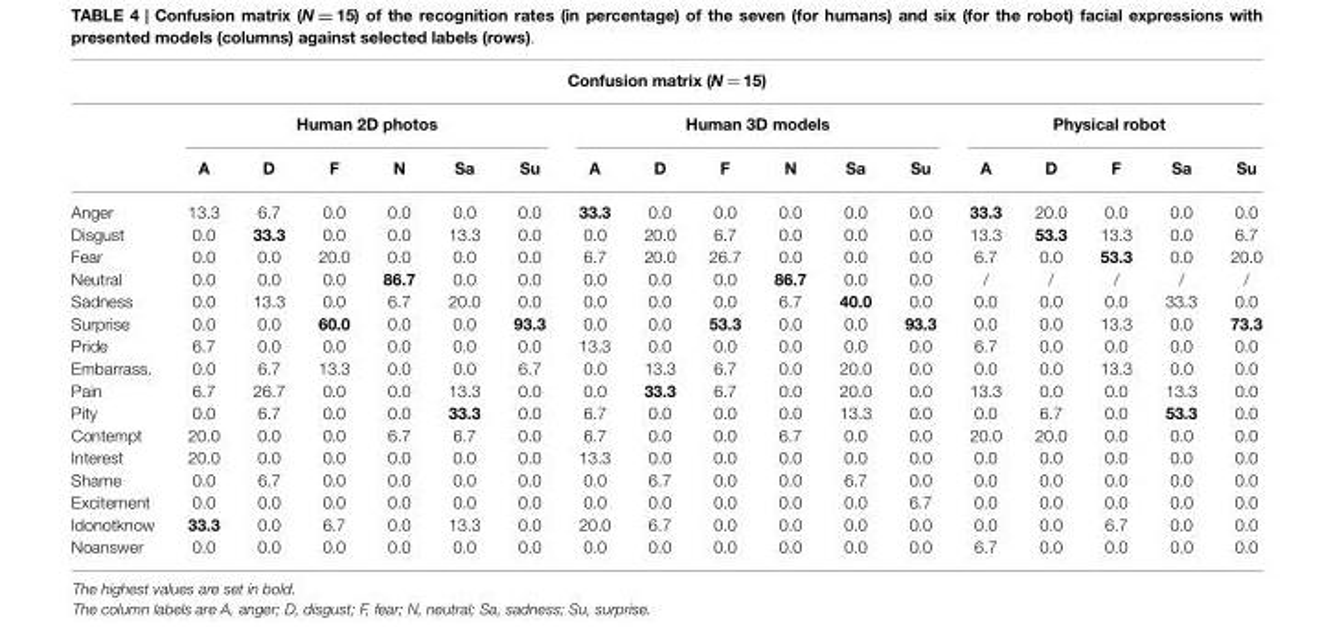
<table><thead><tr><td colspan="18">Confusion matrix (N = 15)</td></tr><tr><td rowspan="2"></td><td colspan="6">Human 2D photos</td><td colspan="6">Human 3D models</td><td colspan="5">Physical robot</td></tr><tr><td>A</td><td>D</td><td>F</td><td>N</td><td>Sa</td><td>Su</td><td>A</td><td>D</td><td>F</td><td>N</td><td>Sa</td><td>Su</td><td>A</td><td>D</td><td>F</td><td>Sa</td><td>Su</td></tr></thead><tbody><tr><td>Anger</td><td>13.3</td><td>6.7</td><td>0.0</td><td>0.0</td><td>0.0</td><td>0.0</td><td>33.3</td><td>0.0</td><td>0.0</td><td>0.0</td><td>0.0</td><td>0.0</td><td>33.3</td><td>20.0</td><td>0.0</td><td>0.0</td><td>0.0</td></tr><tr><td>Disgust</td><td>0.0</td><td>33.3</td><td>0.0</td><td>0.0</td><td>13.3</td><td>0.0</td><td>0.0</td><td>20.0</td><td>6.7</td><td>0.0</td><td>0.0</td><td>0.0</td><td>13.3</td><td>53.3</td><td>13.3</td><td>0.0</td><td>6.7</td></tr><tr><td>Fear</td><td>0.0</td><td>0.0</td><td>20.0</td><td>0.0</td><td>0.0</td><td>0.0</td><td>6.7</td><td>20.0</td><td>26.7</td><td>0.0</td><td>0.0</td><td>0.0</td><td>6.7</td><td>0.0</td><td>53.3</td><td>0.0</td><td>20.0</td></tr><tr><td>Neutral</td><td>0.0</td><td>0.0</td><td>0.0</td><td>86.7</td><td>0.0</td><td>0.0</td><td>0.0</td><td>0.0</td><td>0.0</td><td>86.7</td><td>0.0</td><td>0.0</td><td>/</td><td>/</td><td>/</td><td>/</td><td>/</td></tr><tr><td>Sadness</td><td>0.0</td><td>13.3</td><td>0.0</td><td>6.7</td><td>20.0</td><td>0.0</td><td>0.0</td><td>0.0</td><td>0.0</td><td>6.7</td><td>40.0</td><td>0.0</td><td>0.0</td><td>0.0</td><td>0.0</td><td>33.3</td><td>0.0</td></tr><tr><td>Surprise</td><td>0.0</td><td>0.0</td><td>60.0</td><td>0.0</td><td>0.0</td><td>93.3</td><td>0.0</td><td>0.0</td><td>53.3</td><td>0.0</td><td>0.0</td><td>93.3</td><td>0.0</td><td>0.0</td><td>13.3</td><td>0.0</td><td>73.3</td></tr><tr><td>Pride</td><td>6.7</td><td>0.0</td><td>0.0</td><td>0.0</td><td>0.0</td><td>0.0</td><td>13.3</td><td>0.0</td><td>0.0</td><td>0.0</td><td>0.0</td><td>0.0</td><td>6.7</td><td>0.0</td><td>0.0</td><td>0.0</td><td>0.0</td></tr><tr><td>Embarrass.</td><td>0.0</td><td>6.7</td><td>13.3</td><td>0.0</td><td>0.0</td><td>6.7</td><td>0.0</td><td>13.3</td><td>6.7</td><td>0.0</td><td>20.0</td><td>0.0</td><td>0.0</td><td>0.0</td><td>13.3</td><td>0.0</td><td>0.0</td></tr><tr><td>Pain</td><td>6.7</td><td>26.7</td><td>0.0</td><td>0.0</td><td>13.3</td><td>0.0</td><td>0.0</td><td>33.3</td><td>6.7</td><td>0.0</td><td>20.0</td><td>0.0</td><td>13.3</td><td>0.0</td><td>0.0</td><td>13.3</td><td>0.0</td></tr><tr><td>Pity</td><td>0.0</td><td>6.7</td><td>0.0</td><td>0.0</td><td>33.3</td><td>0.0</td><td>6.7</td><td>0.0</td><td>0.0</td><td>0.0</td><td>13.3</td><td>0.0</td><td>0.0</td><td>6.7</td><td>0.0</td><td>53.3</td><td>0.0</td></tr><tr><td>Contempt</td><td>20.0</td><td>0.0</td><td>0.0</td><td>6.7</td><td>6.7</td><td>0.0</td><td>6.7</td><td>0.0</td><td>0.0</td><td>6.7</td><td>0.0</td><td>0.0</td><td>20.0</td><td>20.0</td><td>0.0</td><td>0.0</td><td>0.0</td></tr><tr><td>Interest</td><td>20.0</td><td>0.0</td><td>0.0</td><td>0.0</td><td>0.0</td><td>0.0</td><td>13.3</td><td>0.0</td><td>0.0</td><td>0.0</td><td>0.0</td><td>0.0</td><td>0.0</td><td>0.0</td><td>0.0</td><td>0.0</td><td>0.0</td></tr><tr><td>Shame</td><td>0.0</td><td>6.7</td><td>0.0</td><td>0.0</td><td>0.0</td><td>0.0</td><td>0.0</td><td>6.7</td><td>0.0</td><td>0.0</td><td>6.7</td><td>0.0</td><td>0.0</td><td>0.0</td><td>0.0</td><td>0.0</td><td>0.0</td></tr><tr><td>Excitement</td><td>0.0</td><td>0.0</td><td>0.0</td><td>0.0</td><td>0.0</td><td>0.0</td><td>0.0</td><td>0.0</td><td>0.0</td><td>0.0</td><td>0.0</td><td>6.7</td><td>0.0</td><td>0.0</td><td>0.0</td><td>0.0</td><td>0.0</td></tr><tr><td>Idonotknow</td><td>33.3</td><td>0.0</td><td>6.7</td><td>0.0</td><td>13.3</td><td>0.0</td><td>20.0</td><td>6.7</td><td>0.0</td><td>0.0</td><td>0.0</td><td>0.0</td><td>0.0</td><td>0.0</td><td>6.7</td><td>0.0</td><td>0.0</td></tr><tr><td>Noanswer</td><td>0.0</td><td>0.0</td><td>0.0</td><td>0.0</td><td>0.0</td><td>0.0</td><td>0.0</td><td>0.0</td><td>0.0</td><td>0.0</td><td>0.0</td><td>0.0</td><td>6.7</td><td>0.0</td><td>0.0</td><td>0.0</td><td>0.0</td></tr></tbody></table>